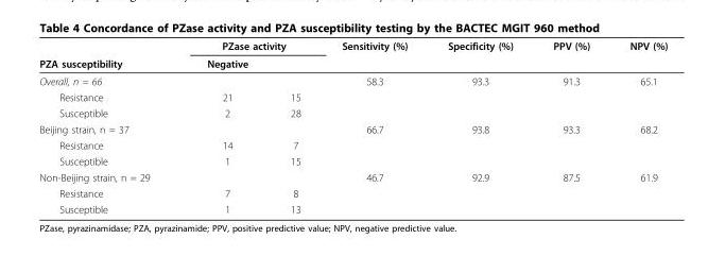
<table><thead><tr><td rowspan="2">PZA susceptibility</td><td colspan="2">PZase activity</td><td rowspan="2">Sensitivity (%)</td><td rowspan="2">Specificity (%)</td><td rowspan="2">PPV (%)</td><td rowspan="2">NPV (%)</td></tr><tr><td>Negative</td><td></td></tr></thead><tbody><tr><td>Overall, n = 66</td><td></td><td></td><td>58.3</td><td>93.3</td><td>91.3</td><td>65.1</td></tr><tr><td>Resistance</td><td>21</td><td>15</td><td></td><td></td><td></td><td></td></tr><tr><td>Susceptible</td><td>2</td><td>28</td><td></td><td></td><td></td><td></td></tr><tr><td>Beijing strain, n = 37</td><td></td><td></td><td>66.7</td><td>93.8</td><td>93.3</td><td>68.2</td></tr><tr><td>Resistance</td><td>14</td><td>7</td><td></td><td></td><td></td><td></td></tr><tr><td>Susceptible</td><td>1</td><td>15</td><td></td><td></td><td></td><td></td></tr><tr><td>Non-Beijing strain, n = 29</td><td></td><td></td><td>46.7</td><td>92.9</td><td>87.5</td><td>61.9</td></tr><tr><td>Resistance</td><td>7</td><td>8</td><td></td><td></td><td></td><td></td></tr><tr><td>Susceptible</td><td>1</td><td>13</td><td></td><td></td><td></td><td></td></tr></tbody></table>